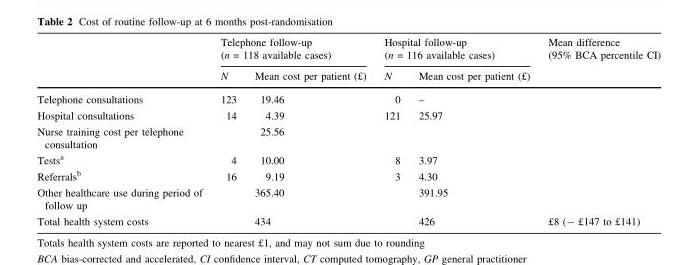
<table><thead><tr><td rowspan="2"></td><td colspan="2">Telephone follow-up (n = 118 available cases)</td><td colspan="2">Hospital follow-up (n = 116 available cases)</td><td rowspan="2">Mean difference (95% BCA percentile CI)</td></tr><tr><td>N</td><td>Mean cost per patient (£)</td><td>N</td><td>Mean cost per patient (£)</td></tr></thead><tbody><tr><td>Telephone consultations</td><td>123</td><td>19.46</td><td>0</td><td>–</td><td></td></tr><tr><td>Hospital consultations</td><td>14</td><td>4.39</td><td>121</td><td>25.97</td><td></td></tr><tr><td>Nurse training cost per telephone consultation</td><td></td><td>25.56</td><td></td><td></td><td></td></tr><tr><td>Tests<sup>a</sup></td><td>4</td><td>10.00</td><td>8</td><td>3.97</td><td></td></tr><tr><td>Referrals<sup>b</sup></td><td>16</td><td>9.19</td><td>3</td><td>4.30</td><td></td></tr><tr><td>Other healthcare use during period of follow up</td><td></td><td>365.40</td><td></td><td>391.95</td><td></td></tr><tr><td>Total health system costs</td><td></td><td>434</td><td></td><td>426</td><td>£8 (- £147 to £141)</td></tr></tbody></table>